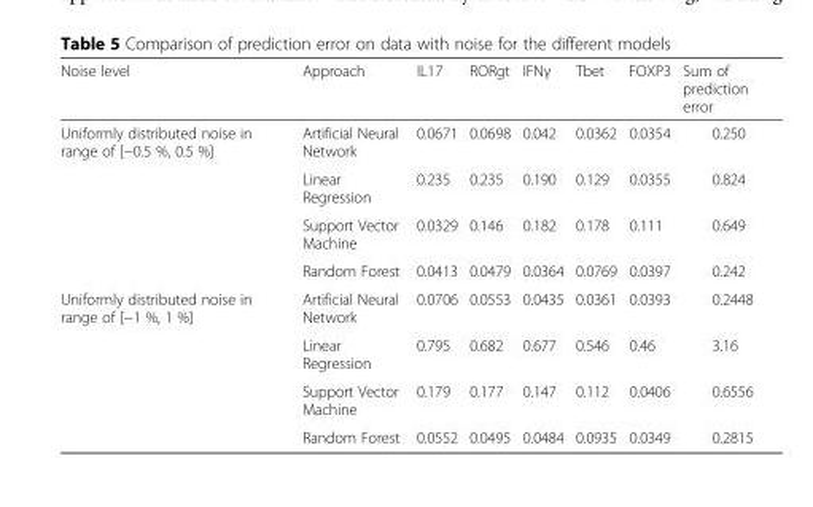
<table><thead><tr><td>Noise level</td><td>Approach</td><td>IL17</td><td>RORgt</td><td>IFNγ</td><td>Tbet</td><td>FOXP3</td><td>Sum of prediction error</td></tr></thead><tbody><tr><td rowspan="4">Uniformly distributed noise in range of [−0.5 %, 0.5 %]</td><td>Artificial Neural Network</td><td>0.0671</td><td>0.0698</td><td>0.042</td><td>0.0362</td><td>0.0354</td><td>0.250</td></tr><tr><td>Linear Regression</td><td>0.235</td><td>0.235</td><td>0.190</td><td>0.129</td><td>0.0355</td><td>0.824</td></tr><tr><td>Support Vector Machine</td><td>0.0329</td><td>0.146</td><td>0.182</td><td>0.178</td><td>0.111</td><td>0.649</td></tr><tr><td>Random Forest</td><td>0.0413</td><td>0.0479</td><td>0.0364</td><td>0.0769</td><td>0.0397</td><td>0.242</td></tr><tr><td rowspan="4">Uniformly distributed noise in range of [−1 %, 1 %]</td><td>Artificial Neural Network</td><td>0.0706</td><td>0.0553</td><td>0.0435</td><td>0.0361</td><td>0.0393</td><td>0.2448</td></tr><tr><td>Linear Regression</td><td>0.795</td><td>0.682</td><td>0.677</td><td>0.546</td><td>0.46</td><td>3.16</td></tr><tr><td>Support Vector Machine</td><td>0.179</td><td>0.177</td><td>0.147</td><td>0.112</td><td>0.0406</td><td>0.6556</td></tr><tr><td>Random Forest</td><td>0.0552</td><td>0.0495</td><td>0.0484</td><td>0.0935</td><td>0.0349</td><td>0.2815</td></tr></tbody></table>